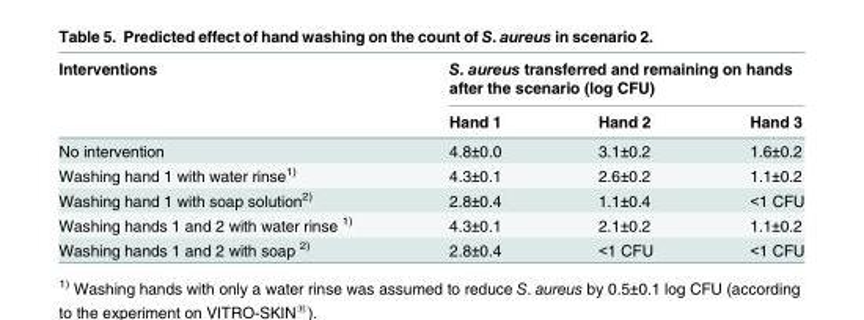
<table><thead><tr><td rowspan="2">Interventions</td><td colspan="3">S. aureus transferred and remaining on hands after the scenario (log CFU)</td></tr><tr><td>Hand 1</td><td>Hand 2</td><td>Hand 3</td></tr></thead><tbody><tr><td>No intervention</td><td>4.8±0.0</td><td>3.1±0.2</td><td>1.6±0.2</td></tr><tr><td>Washing hand 1 with water rinse<sup>1)</sup></td><td>4.3±0.1</td><td>2.6±0.2</td><td>1.1±0.2</td></tr><tr><td>Washing hand 1 with soap solution<sup>2)</sup></td><td>2.8±0.4</td><td>1.1±0.4</td><td>&lt;1 CFU</td></tr><tr><td>Washing hands 1 and 2 with water rinse <sup>1)</sup></td><td>4.3±0.1</td><td>2.1±0.2</td><td>1.1±0.2</td></tr><tr><td>Washing hands 1 and 2 with soap <sup>2)</sup></td><td>2.8±0.4</td><td>&lt;1 CFU</td><td>&lt;1 CFU</td></tr></tbody></table>